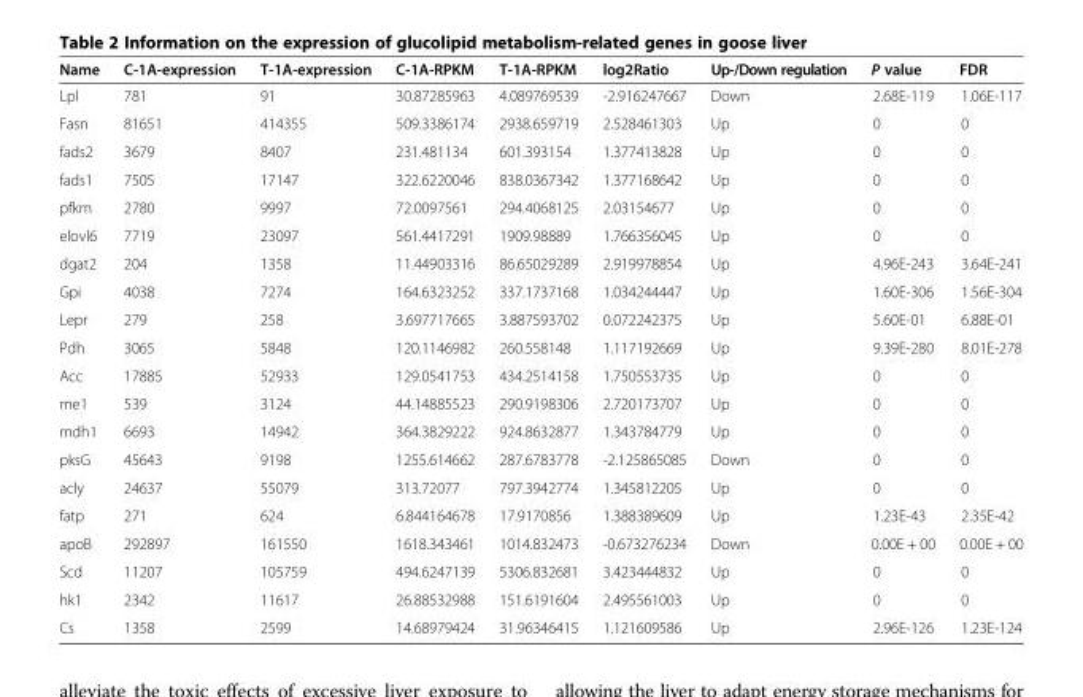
<table><thead><tr><td>Name</td><td>C-1A-expression</td><td>T-1A-expression</td><td>C-1A-RPKM</td><td>T-1A-RPKM</td><td>log2Ratio</td><td>Up-/Down regulation</td><td>P value</td><td>FDR</td></tr></thead><tbody><tr><td>Lpl</td><td>781</td><td>91</td><td>30.87285963</td><td>4.089769539</td><td>-2.916247667</td><td>Down</td><td>2.68E-119</td><td>1.06E-117</td></tr><tr><td>Fasn</td><td>81651</td><td>414355</td><td>509.3386174</td><td>2938.659719</td><td>2.528461303</td><td>Up</td><td>0</td><td>0</td></tr><tr><td>fads2</td><td>3679</td><td>8407</td><td>231.481134</td><td>601.393154</td><td>1.377413828</td><td>Up</td><td>0</td><td>0</td></tr><tr><td>fads1</td><td>7505</td><td>17147</td><td>322.6220046</td><td>838.0367342</td><td>1.377168642</td><td>Up</td><td>0</td><td>0</td></tr><tr><td>pfkm</td><td>2780</td><td>9997</td><td>72.0097561</td><td>294.4068125</td><td>2.03154677</td><td>Up</td><td>0</td><td>0</td></tr><tr><td>elovl6</td><td>7719</td><td>23097</td><td>561.4417291</td><td>1909.98889</td><td>1.766356045</td><td>Up</td><td>0</td><td>0</td></tr><tr><td>dgat2</td><td>204</td><td>1358</td><td>11.44903316</td><td>86.65029289</td><td>2.919978854</td><td>Up</td><td>4.96E-243</td><td>3.64E-241</td></tr><tr><td>Gpi</td><td>4038</td><td>7274</td><td>164.6323252</td><td>337.1737168</td><td>1.034244447</td><td>Up</td><td>1.60E-306</td><td>1.56E-304</td></tr><tr><td>Lepr</td><td>279</td><td>258</td><td>3.697717665</td><td>3.887593702</td><td>0.072242375</td><td>Up</td><td>5.60E-01</td><td>6.88E-01</td></tr><tr><td>Pdh</td><td>3065</td><td>5848</td><td>120.1146982</td><td>260.558148</td><td>1.117192669</td><td>Up</td><td>9.39E-280</td><td>8.01E-278</td></tr><tr><td>Acc</td><td>17885</td><td>52933</td><td>129.0541753</td><td>434.2514158</td><td>1.750553735</td><td>Up</td><td>0</td><td>0</td></tr><tr><td>me1</td><td>539</td><td>3124</td><td>44.14885523</td><td>290.9198306</td><td>2.720173707</td><td>Up</td><td>0</td><td>0</td></tr><tr><td>mdh1</td><td>6693</td><td>14942</td><td>364.3829222</td><td>924.8632877</td><td>1.343784779</td><td>Up</td><td>0</td><td>0</td></tr><tr><td>pksG</td><td>45643</td><td>9198</td><td>1255.614662</td><td>287.6783778</td><td>-2.125865085</td><td>Down</td><td>0</td><td>0</td></tr><tr><td>acly</td><td>24637</td><td>55079</td><td>313.72077</td><td>797.3942774</td><td>1.345812205</td><td>Up</td><td>0</td><td>0</td></tr><tr><td>fatp</td><td>271</td><td>624</td><td>6.844164678</td><td>17.9170856</td><td>1.388389609</td><td>Up</td><td>1.23E-43</td><td>2.35E-42</td></tr><tr><td>apoB</td><td>292897</td><td>161550</td><td>1618.343461</td><td>1014.832473</td><td>-0.673276234</td><td>Down</td><td>0.00E + 00</td><td>0.00E + 00</td></tr><tr><td>Scd</td><td>11207</td><td>105759</td><td>494.6247139</td><td>5306.832681</td><td>3.423444832</td><td>Up</td><td>0</td><td>0</td></tr><tr><td>hk1</td><td>2342</td><td>11617</td><td>26.88532988</td><td>151.6191604</td><td>2.495561003</td><td>Up</td><td>0</td><td>0</td></tr><tr><td>Cs</td><td>1358</td><td>2599</td><td>14.68979424</td><td>31.96346415</td><td>1.121609586</td><td>Up</td><td>2.96E-126</td><td>1.23E-124</td></tr></tbody></table>